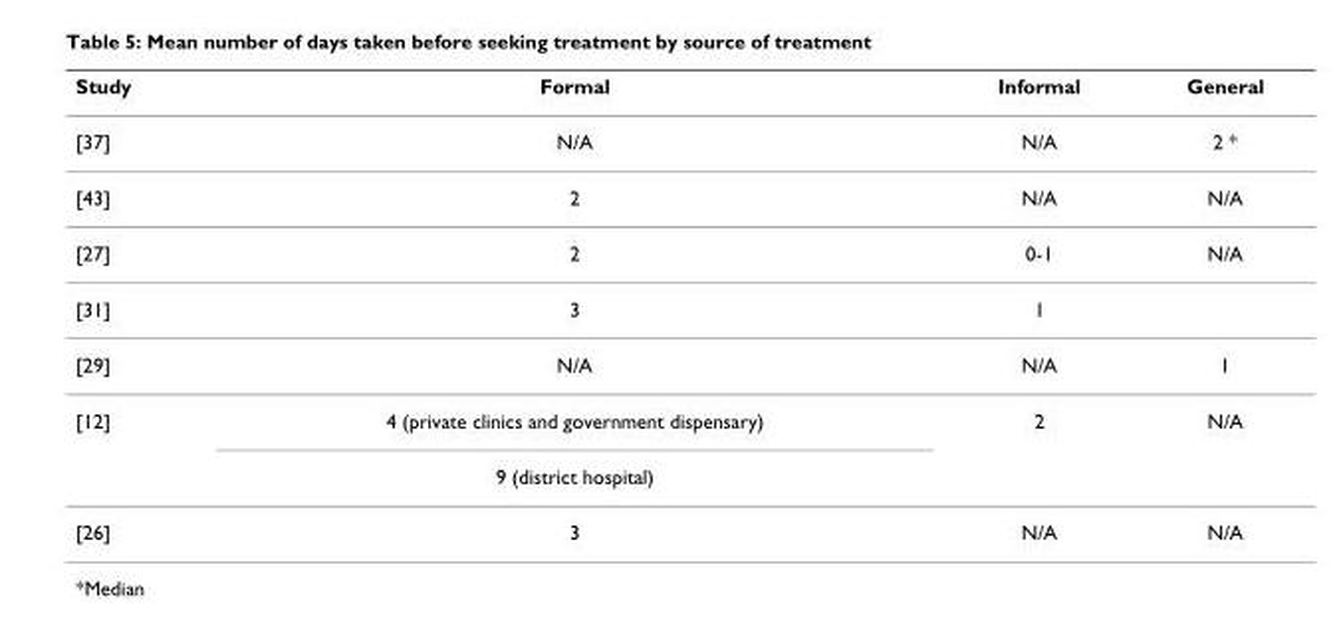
<table><thead><tr><td>Study</td><td>Formal</td><td>Informal</td><td>General</td></tr></thead><tbody><tr><td>[37]</td><td>N/A</td><td>N/A</td><td>2 *</td></tr><tr><td>[43]</td><td>2</td><td>N/A</td><td>N/A</td></tr><tr><td>[27]</td><td>2</td><td>0-1</td><td>N/A</td></tr><tr><td>[31]</td><td>3</td><td>1</td><td></td></tr><tr><td>[29]</td><td>N/A</td><td>N/A</td><td>1</td></tr><tr><td rowspan="2">[12]</td><td>4 (private clinics and government dispensary)</td><td>2</td><td>N/A</td></tr><tr><td>9 (district hospital)</td><td></td><td></td></tr><tr><td>[26]</td><td>3</td><td>N/A</td><td>N/A</td></tr></tbody></table>